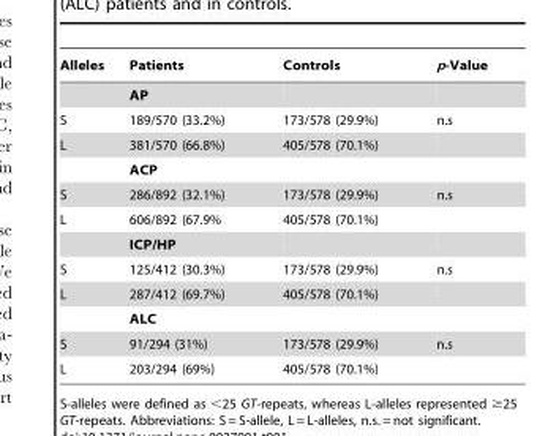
<table><thead><tr><td>Alleles</td><td>Patients</td><td>Controls</td><td>p-Value</td></tr></thead><tbody><tr><td></td><td>AP</td><td></td><td></td></tr><tr><td>S</td><td>189/570 (33.2%)</td><td>173/578 (29.9%)</td><td>n.s</td></tr><tr><td rowspan="2">L</td><td>381/570 (66.8%)</td><td>405/578 (70.1%)</td><td></td></tr><tr><td>ACP</td><td></td><td></td></tr><tr><td>S</td><td>286/892 (32.1%)</td><td>173/578 (29.9%)</td><td>n.s</td></tr><tr><td rowspan="2">L</td><td>606/892 (67.9%</td><td>405/578 (70.1%)</td><td></td></tr><tr><td>ICP/HP</td><td></td><td></td></tr><tr><td>S</td><td>125/412 (30.3%)</td><td>173/578 (29.9%)</td><td>n.s</td></tr><tr><td rowspan="2">L</td><td>287/412 (69.7%)</td><td>405/578 (70.1%)</td><td></td></tr><tr><td>ALC</td><td></td><td></td></tr><tr><td>S</td><td>91/294 (31%)</td><td>173/578 (29.9%)</td><td>n.s</td></tr><tr><td>L</td><td>203/294 (69%)</td><td>405/578 (70.1%)</td><td></td></tr></tbody></table>